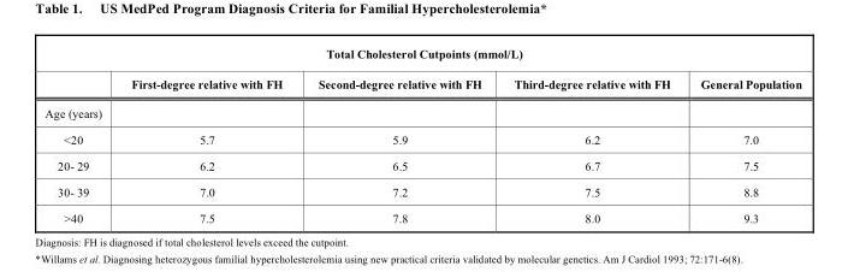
<table><thead><tr><td colspan="5">Total Cholesterol Cutpoints (mmol/L)</td></tr><tr><td></td><td>First-degree relative with FH</td><td>Second-degree relative with FH</td><td>Third-degree relative with FH</td><td>General Population</td></tr></thead><tbody><tr><td colspan="5">Age (years)</td></tr><tr><td>&lt;20</td><td>5.7</td><td>5.9</td><td>6.2</td><td>7.0</td></tr><tr><td>20- 29</td><td>6.2</td><td>6.5</td><td>6.7</td><td>7.5</td></tr><tr><td>30- 39</td><td>7.0</td><td>7.2</td><td>7.5</td><td>8.8</td></tr><tr><td>&gt;40</td><td>7.5</td><td>7.8</td><td>8.0</td><td>9.3</td></tr></tbody></table>